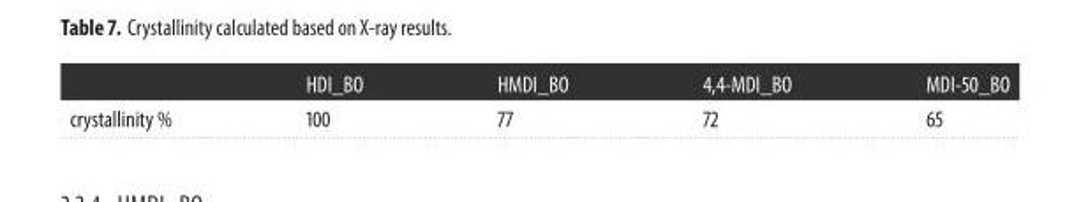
<table><thead><tr><td></td><td>HDI_BO</td><td>HMDI_BO</td><td>4,4-MDI_BO</td><td>MDI-50_BO</td></tr></thead><tbody><tr><td>crystallinity %</td><td>100</td><td>77</td><td>72</td><td>65</td></tr></tbody></table>